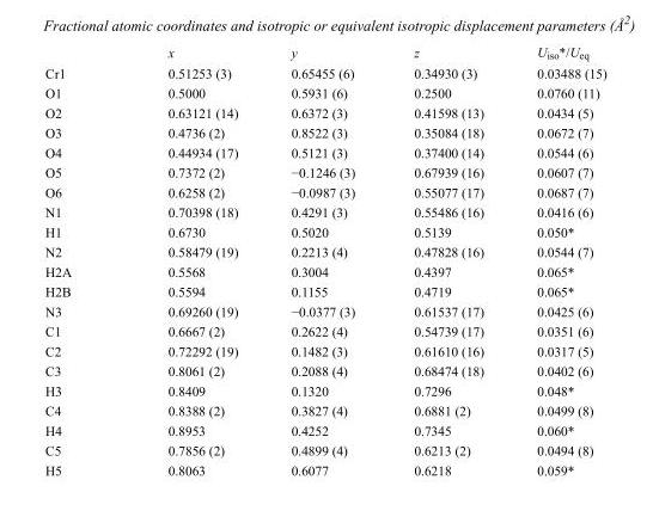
<table><thead><tr><td></td><td>x</td><td>y</td><td>z</td><td>U<sub>iso</sub>*/U<sub>eq</sub></td></tr></thead><tbody><tr><td>Cr1</td><td>0.51253 (3)</td><td>0.65455 (6)</td><td>0.34930 (3)</td><td>0.03488 (15)</td></tr><tr><td>O1</td><td>0.5000</td><td>0.5931 (6)</td><td>0.2500</td><td>0.0760 (11)</td></tr><tr><td>O2</td><td>0.63121 (14)</td><td>0.6372 (3)</td><td>0.41598 (13)</td><td>0.0434 (5)</td></tr><tr><td>O3</td><td>0.4736 (2)</td><td>0.8522 (3)</td><td>0.35084 (18)</td><td>0.0672 (7)</td></tr><tr><td>O4</td><td>0.44934 (17)</td><td>0.5121 (3)</td><td>0.37400 (14)</td><td>0.0544 (6)</td></tr><tr><td>O5</td><td>0.7372 (2)</td><td>−0.1246 (3)</td><td>0.67939 (16)</td><td>0.0607 (7)</td></tr><tr><td>O6</td><td>0.6258 (2)</td><td>−0.0987 (3)</td><td>0.55077 (17)</td><td>0.0687 (7)</td></tr><tr><td>N1</td><td>0.70398 (18)</td><td>0.4291 (3)</td><td>0.55486 (16)</td><td>0.0416 (6)</td></tr><tr><td>H1</td><td>0.6730</td><td>0.5020</td><td>0.5139</td><td>0.050*</td></tr><tr><td>N2</td><td>0.58479 (19)</td><td>0.2213 (4)</td><td>0.47828 (16)</td><td>0.0544 (7)</td></tr><tr><td>H2A</td><td>0.5568</td><td>0.3004</td><td>0.4397</td><td>0.065*</td></tr><tr><td>H2B</td><td>0.5594</td><td>0.1155</td><td>0.4719</td><td>0.065*</td></tr><tr><td>N3</td><td>0.69260 (19)</td><td>−0.0377 (3)</td><td>0.61537 (17)</td><td>0.0425 (6)</td></tr><tr><td>C1</td><td>0.6667 (2)</td><td>0.2622 (4)</td><td>0.54739 (17)</td><td>0.0351 (6)</td></tr><tr><td>C2</td><td>0.72292 (19)</td><td>0.1482 (3)</td><td>0.61610 (16)</td><td>0.0317 (5)</td></tr><tr><td>C3</td><td>0.8061 (2)</td><td>0.2088 (4)</td><td>0.68474 (18)</td><td>0.0402 (6)</td></tr><tr><td>H3</td><td>0.8409</td><td>0.1320</td><td>0.7296</td><td>0.048*</td></tr><tr><td>C4</td><td>0.8388 (2)</td><td>0.3827 (4)</td><td>0.6881 (2)</td><td>0.0499 (8)</td></tr><tr><td>H4</td><td>0.8953</td><td>0.4252</td><td>0.7345</td><td>0.060*</td></tr><tr><td>C5</td><td>0.7856 (2)</td><td>0.4899 (4)</td><td>0.6213 (2)</td><td>0.0494 (8)</td></tr><tr><td>H5</td><td>0.8063</td><td>0.6077</td><td>0.6218</td><td>0.059*</td></tr></tbody></table>